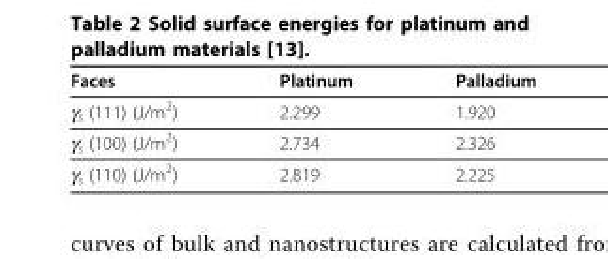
<table><thead><tr><td>Faces</td><td>Platinum</td><td>Palladium</td></tr></thead><tbody><tr><td>γ<sub>s</sub> (111) (J/m<sup>2</sup>)</td><td>2.299</td><td>1.920</td></tr><tr><td>γ<sub>s</sub> (100) (J/m<sup>2</sup>)</td><td>2.734</td><td>2.326</td></tr><tr><td>γ<sub>s</sub> (110) (J/m<sup>2</sup>)</td><td>2.819</td><td>2.225</td></tr></tbody></table>